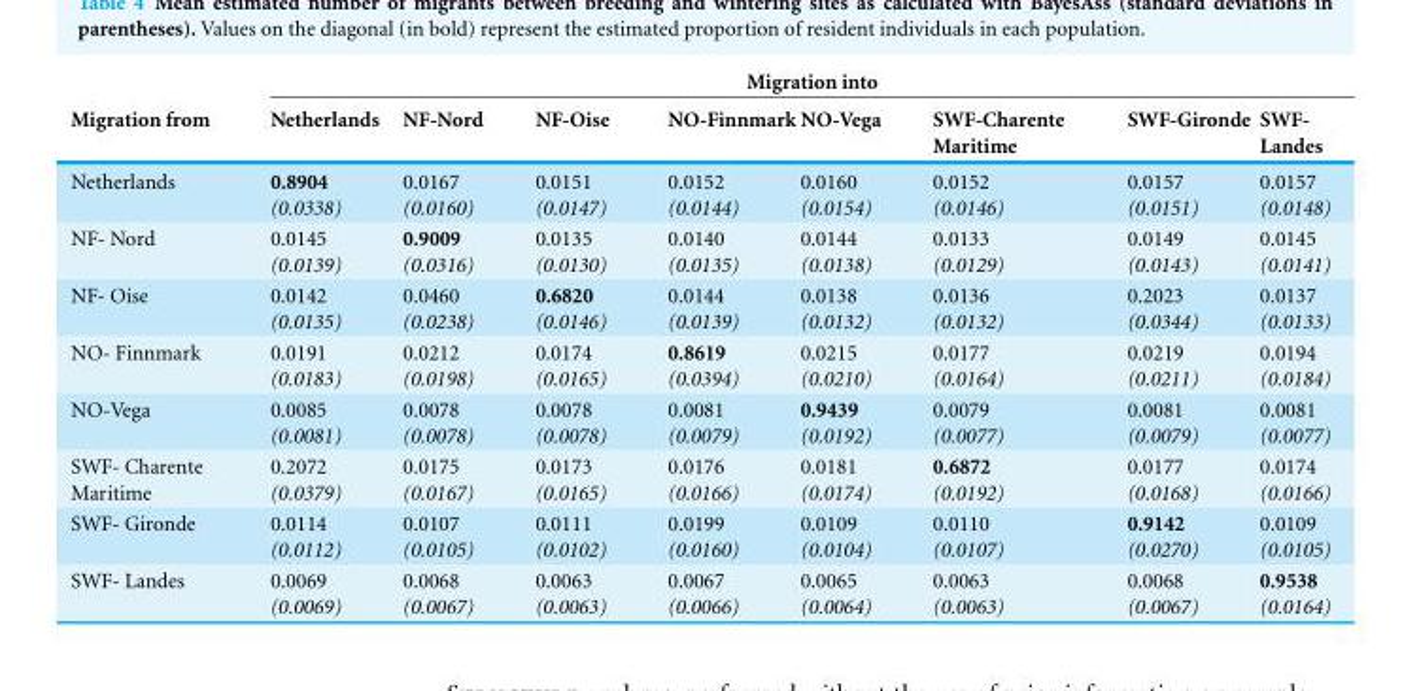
<table><thead><tr><td rowspan="2">Migration from</td><td colspan="8">Migration into</td></tr><tr><td>Netherlands</td><td>NF-Nord</td><td>NF-Oise</td><td>NO-Finnmark</td><td>NO-Vega</td><td>SWF-Charente Maritime</td><td>SWF-Gironde</td><td>SWF- Landes</td></tr></thead><tbody><tr><td>Netherlands</td><td>0.8904 (0.0338)</td><td>0.0167 (0.0160)</td><td>0.0151 (0.0147)</td><td>0.0152 (0.0144)</td><td>0.0160 (0.0154)</td><td>0.0152 (0.0146)</td><td>0.0157 (0.0151)</td><td>0.0157 (0.0148)</td></tr><tr><td>NF- Nord</td><td>0.0145 (0.0139)</td><td>0.9009 (0.0316)</td><td>0.0135 (0.0130)</td><td>0.0140 (0.0135)</td><td>0.0144 (0.0138)</td><td>0.0133 (0.0129)</td><td>0.0149 (0.0143)</td><td>0.0145 (0.0141)</td></tr><tr><td>NF- Oise</td><td>0.0142 (0.0135)</td><td>0.0460 (0.0238)</td><td>0.6820 (0.0146)</td><td>0.0144 (0.0139)</td><td>0.0138 (0.0132)</td><td>0.0136 (0.0132)</td><td>0.2023 (0.0344)</td><td>0.0137 (0.0133)</td></tr><tr><td>NO- Finnmark</td><td>0.0191 (0.0183)</td><td>0.0212 (0.0198)</td><td>0.0174 (0.0165)</td><td>0.8619 (0.0394)</td><td>0.0215 (0.0210)</td><td>0.0177 (0.0164)</td><td>0.0219 (0.0211)</td><td>0.0194 (0.0184)</td></tr><tr><td>NO-Vega</td><td>0.0085 (0.0081)</td><td>0.0078 (0.0078)</td><td>0.0078 (0.0078)</td><td>0.0081 (0.0079)</td><td>0.9439 (0.0192)</td><td>0.0079 (0.0077)</td><td>0.0081 (0.0079)</td><td>0.0081 (0.0077)</td></tr><tr><td>SWF- Charente Maritime</td><td>0.2072 (0.0379)</td><td>0.0175 (0.0167)</td><td>0.0173 (0.0165)</td><td>0.0176 (0.0166)</td><td>0.0181 (0.0174)</td><td>0.6872 (0.0192)</td><td>0.0177 (0.0168)</td><td>0.0174 (0.0166)</td></tr><tr><td>SWF- Gironde</td><td>0.0114 (0.0112)</td><td>0.0107 (0.0105)</td><td>0.0111 (0.0102)</td><td>0.0199 (0.0160)</td><td>0.0109 (0.0104)</td><td>0.0110 (0.0107)</td><td>0.9142 (0.0270)</td><td>0.0109 (0.0105)</td></tr><tr><td>SWF- Landes</td><td>0.0069 (0.0069)</td><td>0.0068 (0.0067)</td><td>0.0063 (0.0063)</td><td>0.0067 (0.0066)</td><td>0.0065 (0.0064)</td><td>0.0063 (0.0063)</td><td>0.0068 (0.0067)</td><td>0.9538 (0.0164)</td></tr></tbody></table>